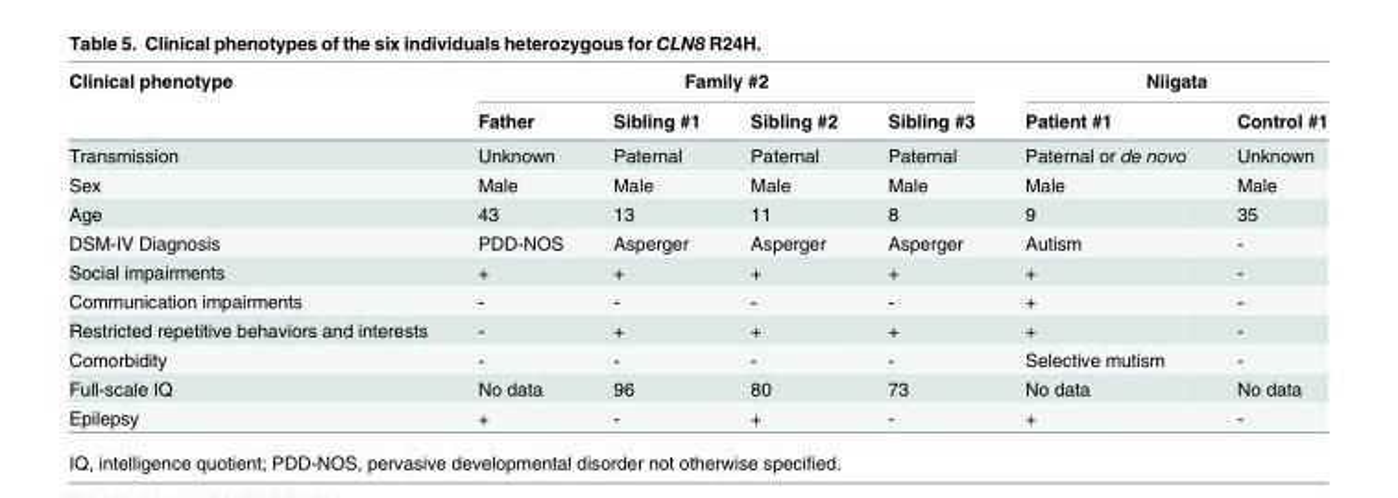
<table><thead><tr><td rowspan="2">Clinical phenotype</td><td colspan="4">Family #2</td><td colspan="2">Niigata</td></tr><tr><td>Father</td><td>Sibling #1</td><td>Sibling #2</td><td>Sibling #3</td><td>Patient #1</td><td>Control #1</td></tr></thead><tbody><tr><td>Transmission</td><td>Unknown</td><td>Paternal</td><td>Paternal</td><td>Paternal</td><td>Paternal or de novo</td><td>Unknown</td></tr><tr><td>Sex</td><td>Male</td><td>Male</td><td>Male</td><td>Male</td><td>Male</td><td>Male</td></tr><tr><td>Age</td><td>43</td><td>13</td><td>11</td><td>8</td><td>9</td><td>35</td></tr><tr><td>DSM-IV Diagnosis</td><td>PDD-NOS</td><td>Asperger</td><td>Asperger</td><td>Asperger</td><td>Autism</td><td>-</td></tr><tr><td>Social impairments</td><td>+</td><td>+</td><td>+</td><td>+</td><td>+</td><td>-</td></tr><tr><td>Communication impairments</td><td>-</td><td>-</td><td>-</td><td>-</td><td>+</td><td>-</td></tr><tr><td>Restricted repetitive behaviors and interests</td><td>-</td><td>+</td><td>+</td><td>+</td><td>+</td><td>-</td></tr><tr><td>Comorbidity</td><td>-</td><td>-</td><td>-</td><td>-</td><td>Selective mutism</td><td>-</td></tr><tr><td>Full-scale IQ</td><td>No data</td><td>96</td><td>80</td><td>73</td><td>No data</td><td>No data</td></tr><tr><td>Epilepsy</td><td>+</td><td>-</td><td>+</td><td>-</td><td>+</td><td>-</td></tr></tbody></table>